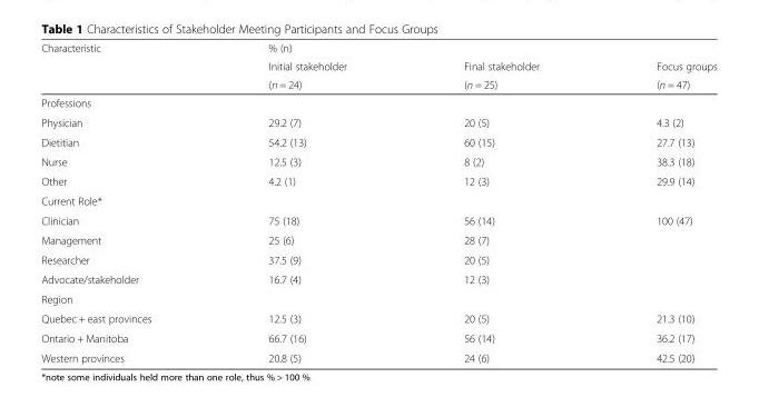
<table><thead><tr><td rowspan="3">Characteristic</td><td colspan="3">% (n)</td></tr><tr><td rowspan="2">Initial stakeholder (n = 24)</td><td rowspan="2">Final stakeholder (n = 25)</td><td rowspan="2">Focus groups (n = 47)</td></tr><tr></tr></thead><tbody><tr><td colspan="4">Professions</td></tr><tr><td>Physician</td><td>29.2 (7)</td><td>20 (5)</td><td>4.3 (2)</td></tr><tr><td>Dietitian</td><td>54.2 (13)</td><td>60 (15)</td><td>27.7 (13)</td></tr><tr><td>Nurse</td><td>12.5 (3)</td><td>8 (2)</td><td>38.3 (18)</td></tr><tr><td>Other</td><td>4.2 (1)</td><td>12 (3)</td><td>29.9 (14)</td></tr><tr><td colspan="4">Current Role*</td></tr><tr><td>Clinician</td><td>75 (18)</td><td>56 (14)</td><td>100 (47)</td></tr><tr><td>Management</td><td>25 (6)</td><td>28 (7)</td><td></td></tr><tr><td>Researcher</td><td>37.5 (9)</td><td>20 (5)</td><td></td></tr><tr><td>Advocate/stakeholder</td><td>16.7 (4)</td><td>12 (3)</td><td></td></tr><tr><td colspan="4">Region</td></tr><tr><td>Quebec + east provinces</td><td>12.5 (3)</td><td>20 (5)</td><td>21.3 (10)</td></tr><tr><td>Ontario + Manitoba</td><td>66.7 (16)</td><td>56 (14)</td><td>36.2 (17)</td></tr><tr><td>Western provinces</td><td>20.8 (5)</td><td>24 (6)</td><td>42.5 (20)</td></tr></tbody></table>